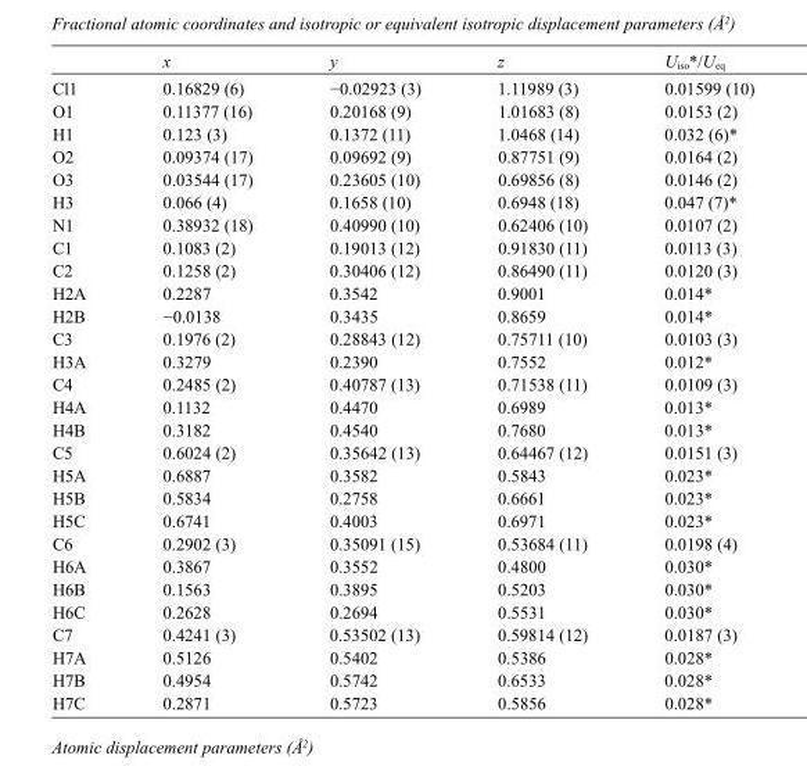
<table><thead><tr><td></td><td>x</td><td>y</td><td>z</td><td>U<sub>iso</sub>*/U<sub>eq</sub></td></tr></thead><tbody><tr><td>Cl1</td><td>0.16829 (6)</td><td>−0.02923 (3)</td><td>1.11989 (3)</td><td>0.01599 (10)</td></tr><tr><td>O1</td><td>0.11377 (16)</td><td>0.20168 (9)</td><td>1.01683 (8)</td><td>0.0153 (2)</td></tr><tr><td>H1</td><td>0.123 (3)</td><td>0.1372 (11)</td><td>1.0468 (14)</td><td>0.032 (6)*</td></tr><tr><td>O2</td><td>0.09374 (17)</td><td>0.09692 (9)</td><td>0.87751 (9)</td><td>0.0164 (2)</td></tr><tr><td>O3</td><td>0.03544 (17)</td><td>0.23605 (10)</td><td>0.69856 (8)</td><td>0.0146 (2)</td></tr><tr><td>H3</td><td>0.066 (4)</td><td>0.1658 (10)</td><td>0.6948 (18)</td><td>0.047 (7)*</td></tr><tr><td>N1</td><td>0.38932 (18)</td><td>0.40990 (10)</td><td>0.62406 (10)</td><td>0.0107 (2)</td></tr><tr><td>C1</td><td>0.1083 (2)</td><td>0.19013 (12)</td><td>0.91830 (11)</td><td>0.0113 (3)</td></tr><tr><td>C2</td><td>0.1258 (2)</td><td>0.30406 (12)</td><td>0.86490 (11)</td><td>0.0120 (3)</td></tr><tr><td>H2A</td><td>0.2287</td><td>0.3542</td><td>0.9001</td><td>0.014*</td></tr><tr><td>H2B</td><td>−0.0138</td><td>0.3435</td><td>0.8659</td><td>0.014*</td></tr><tr><td>C3</td><td>0.1976 (2)</td><td>0.28843 (12)</td><td>0.75711 (10)</td><td>0.0103 (3)</td></tr><tr><td>H3A</td><td>0.3279</td><td>0.2390</td><td>0.7552</td><td>0.012*</td></tr><tr><td>C4</td><td>0.2485 (2)</td><td>0.40787 (13)</td><td>0.71538 (11)</td><td>0.0109 (3)</td></tr><tr><td>H4A</td><td>0.1132</td><td>0.4470</td><td>0.6989</td><td>0.013*</td></tr><tr><td>H4B</td><td>0.3182</td><td>0.4540</td><td>0.7680</td><td>0.013*</td></tr><tr><td>C5</td><td>0.6024 (2)</td><td>0.35642 (13)</td><td>0.64467 (12)</td><td>0.0151 (3)</td></tr><tr><td>H5A</td><td>0.6887</td><td>0.3582</td><td>0.5843</td><td>0.023*</td></tr><tr><td>H5B</td><td>0.5834</td><td>0.2758</td><td>0.6661</td><td>0.023*</td></tr><tr><td>H5C</td><td>0.6741</td><td>0.4003</td><td>0.6971</td><td>0.023*</td></tr><tr><td>C6</td><td>0.2902 (3)</td><td>0.35091 (15)</td><td>0.53684 (11)</td><td>0.0198 (4)</td></tr><tr><td>H6A</td><td>0.3867</td><td>0.3552</td><td>0.4800</td><td>0.030*</td></tr><tr><td>H6B</td><td>0.1563</td><td>0.3895</td><td>0.5203</td><td>0.030*</td></tr><tr><td>H6C</td><td>0.2628</td><td>0.2694</td><td>0.5531</td><td>0.030*</td></tr><tr><td>C7</td><td>0.4241 (3)</td><td>0.53502 (13)</td><td>0.59814 (12)</td><td>0.0187 (3)</td></tr><tr><td>H7A</td><td>0.5126</td><td>0.5402</td><td>0.5386</td><td>0.028*</td></tr><tr><td>H7B</td><td>0.4954</td><td>0.5742</td><td>0.6533</td><td>0.028*</td></tr><tr><td>H7C</td><td>0.2871</td><td>0.5723</td><td>0.5856</td><td>0.028*</td></tr></tbody></table>